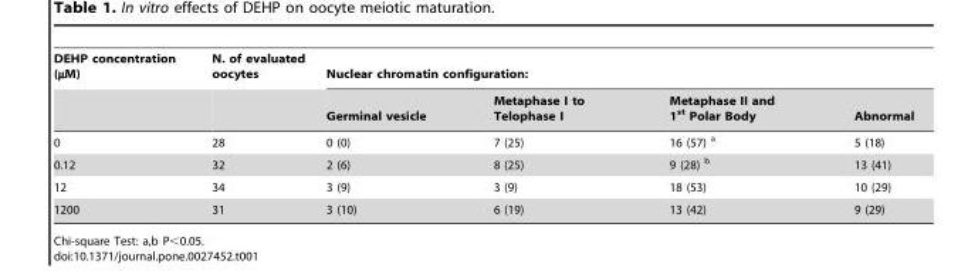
<table><thead><tr><td rowspan="2">DEHP concentration (µM)</td><td rowspan="2">N. of evaluated oocytes</td><td colspan="4">Nuclear chromatin configuration:</td></tr><tr><td>Germinal vesicle</td><td>Metaphase I to Telophase I</td><td>Metaphase II and 1<sup>st</sup> Polar Body</td><td>Abnormal</td></tr></thead><tbody><tr><td>0</td><td>28</td><td>0 (0)</td><td>7 (25)</td><td>16 (57) <sup>a</sup></td><td>5 (18)</td></tr><tr><td>0.12</td><td>32</td><td>2 (6)</td><td>8 (25)</td><td>9 (28) <sup>b</sup></td><td>13 (41)</td></tr><tr><td>12</td><td>34</td><td>3 (9)</td><td>3 (9)</td><td>18 (53)</td><td>10 (29)</td></tr><tr><td>1200</td><td>31</td><td>3 (10)</td><td>6 (19)</td><td>13 (42)</td><td>9 (29)</td></tr></tbody></table>